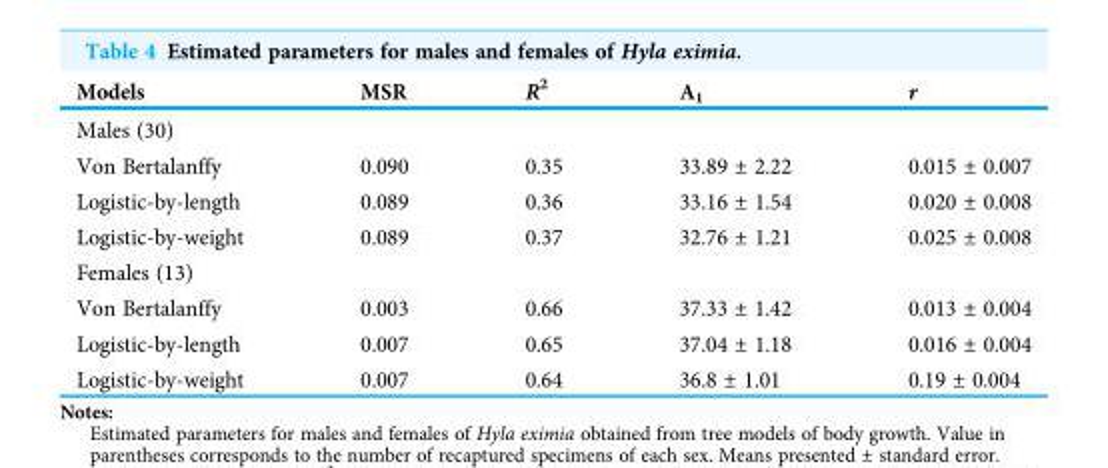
<table><thead><tr><td>Models</td><td>MSR</td><td>R<sup>2</sup></td><td>A<sub>1</sub></td><td>r</td></tr></thead><tbody><tr><td colspan="5">Males (30)</td></tr><tr><td>Von Bertalanffy</td><td>0.090</td><td>0.35</td><td>33.89 ± 2.22</td><td>0.015 ± 0.007</td></tr><tr><td>Logistic-by-length</td><td>0.089</td><td>0.36</td><td>33.16 ± 1.54</td><td>0.020 ± 0.008</td></tr><tr><td>Logistic-by-weight</td><td>0.089</td><td>0.37</td><td>32.76 ± 1.21</td><td>0.025 ± 0.008</td></tr><tr><td colspan="5">Females (13)</td></tr><tr><td>Von Bertalanffy</td><td>0.003</td><td>0.66</td><td>37.33 ± 1.42</td><td>0.013 ± 0.004</td></tr><tr><td>Logistic-by-length</td><td>0.007</td><td>0.65</td><td>37.04 ± 1.18</td><td>0.016 ± 0.004</td></tr><tr><td>Logistic-by-weight</td><td>0.007</td><td>0.64</td><td>36.8 ± 1.01</td><td>0.19 ± 0.004</td></tr></tbody></table>